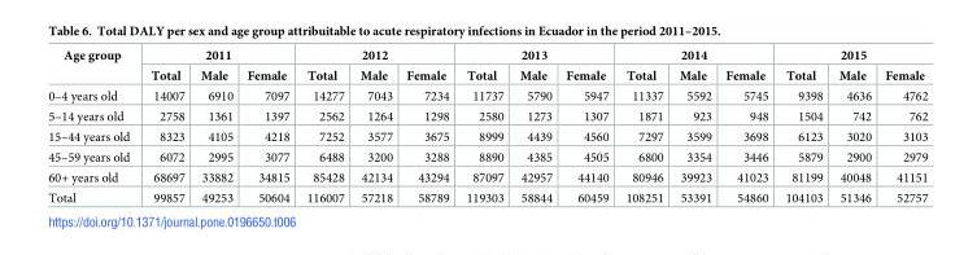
<table><thead><tr><td rowspan="2">Age group</td><td colspan="3">2011</td><td colspan="3">2012</td><td colspan="3">2013</td><td colspan="3">2014</td><td colspan="3">2015</td></tr><tr><td>Total</td><td>Male</td><td>Female</td><td>Total</td><td>Male</td><td>Female</td><td>Total</td><td>Male</td><td>Female</td><td>Total</td><td>Male</td><td>Female</td><td>Total</td><td>Male</td><td>Female</td></tr></thead><tbody><tr><td>0–4 years old</td><td>14007</td><td>6910</td><td>7097</td><td>14277</td><td>7043</td><td>7234</td><td>11737</td><td>5790</td><td>5947</td><td>11337</td><td>5592</td><td>5745</td><td>9398</td><td>4636</td><td>4762</td></tr><tr><td>5–14 years old</td><td>2758</td><td>1361</td><td>1397</td><td>2562</td><td>1264</td><td>1298</td><td>2580</td><td>1273</td><td>1307</td><td>1871</td><td>923</td><td>948</td><td>1504</td><td>742</td><td>762</td></tr><tr><td>15–44 years old</td><td>8323</td><td>4105</td><td>4218</td><td>7252</td><td>3577</td><td>3675</td><td>8999</td><td>4439</td><td>4560</td><td>7297</td><td>3599</td><td>3698</td><td>6123</td><td>3020</td><td>3103</td></tr><tr><td>45–59 years old</td><td>6072</td><td>2995</td><td>3077</td><td>6488</td><td>3200</td><td>3288</td><td>8890</td><td>4385</td><td>4505</td><td>6800</td><td>3354</td><td>3446</td><td>5879</td><td>2900</td><td>2979</td></tr><tr><td>60+ years old</td><td>68697</td><td>33882</td><td>34815</td><td>85428</td><td>42134</td><td>43294</td><td>87097</td><td>42957</td><td>44140</td><td>80946</td><td>39923</td><td>41023</td><td>81199</td><td>40048</td><td>41151</td></tr><tr><td>Total</td><td>99857</td><td>49253</td><td>50604</td><td>116007</td><td>57218</td><td>58789</td><td>119303</td><td>58844</td><td>60459</td><td>108251</td><td>53391</td><td>54860</td><td>104103</td><td>51346</td><td>52757</td></tr></tbody></table>